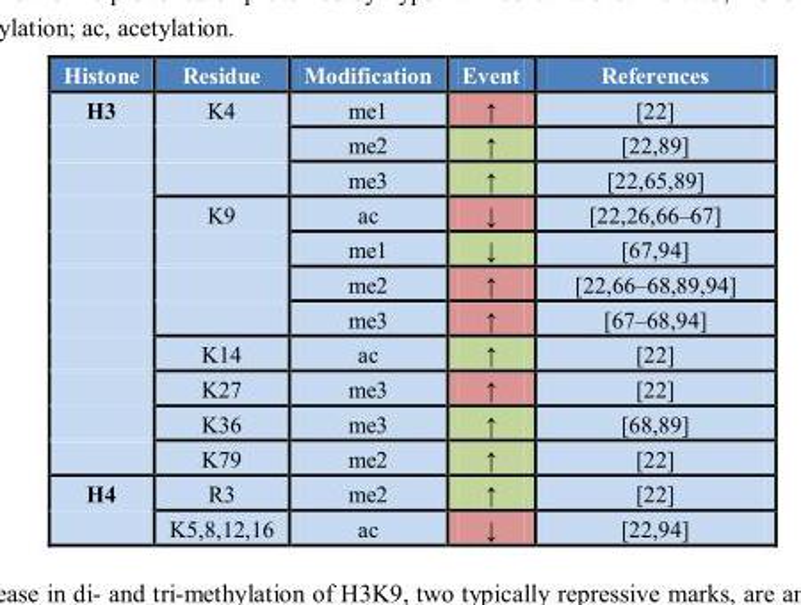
<table><thead><tr><td>Histone</td><td>Residue</td><td>Modification</td><td>Event</td><td>References</td></tr></thead><tbody><tr><td rowspan="11">H3</td><td rowspan="3">K4</td><td>me1</td><td>↑</td><td>[22]</td></tr><tr><td>me2</td><td>↑</td><td>[22,89]</td></tr><tr><td>me3</td><td>↑</td><td>[22,65,89]</td></tr><tr><td rowspan="4">K9</td><td>ac</td><td>↓</td><td>[22,26,66–67]</td></tr><tr><td>me1</td><td>↓</td><td>[67,94]</td></tr><tr><td>me2</td><td>↑</td><td>[22,66–68,89,94]</td></tr><tr><td>me3</td><td>↑</td><td>[67–68,94]</td></tr><tr><td>K14</td><td>ac</td><td>↑</td><td>[22]</td></tr><tr><td>K27</td><td>me3</td><td>↑</td><td>[22]</td></tr><tr><td>K36</td><td>me3</td><td>↑</td><td>[68,89]</td></tr><tr><td>K79</td><td>me2</td><td>↑</td><td>[22]</td></tr><tr><td rowspan="2">H4</td><td>R3</td><td>me2</td><td>↑</td><td>[22]</td></tr><tr><td>K5,8,12,16</td><td>ac</td><td>↓</td><td>[22,94]</td></tr></tbody></table>